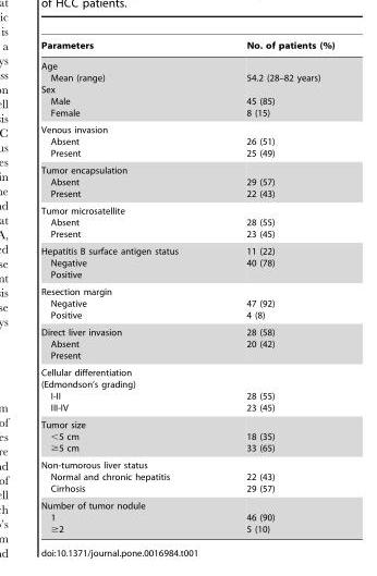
<table><thead><tr><td>Parameters</td><td>No. of patients (%)</td></tr></thead><tbody><tr><td>Age Mean (range) Sex Male Female</td><td>54.2 (28–82 years) 45 (85) 8 (15)</td></tr><tr><td>Venous invasion Absent Present</td><td>26 (51) 25 (49)</td></tr><tr><td>Tumor encapsulation Absent Present</td><td>29 (57) 22 (43)</td></tr><tr><td>Tumor microsatellite Absent Present</td><td>28 (55) 23 (45)</td></tr><tr><td>Hepatitis B surface antigen status Negative Positive</td><td>11 (22) 40 (78)</td></tr><tr><td>Resection margin Negative Positive</td><td>47 (92) 4 (8)</td></tr><tr><td>Direct liver invasion Absent Present</td><td>28 (58) 20 (42)</td></tr><tr><td>Cellular differentiation (Edmondson’s grading) I-II III-IV</td><td>28 (55) 23 (45)</td></tr><tr><td>Tumor size &lt;5 cm ≥5 cm</td><td>18 (35) 33 (65)</td></tr><tr><td>Non-tumorous liver status Normal and chronic hepatitis Cirrhosis</td><td>22 (43) 29 (57)</td></tr><tr><td>Number of tumor nodule 1 ≥2</td><td>46 (90) 5 (10)</td></tr></tbody></table>